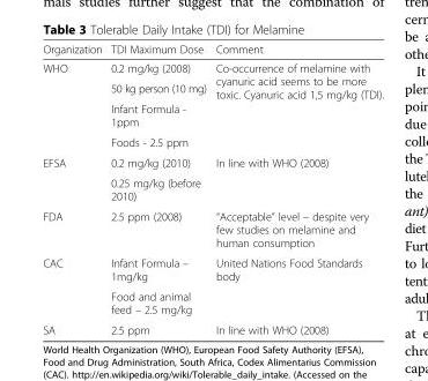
<table><thead><tr><td>Organization</td><td>TDI Maximum Dose</td><td>Comment</td></tr></thead><tbody><tr><td rowspan="4">WHO</td><td>0.2 mg/kg (2008)</td><td rowspan="4">Co-occurrence of melamine with cyanuric acid seems to be more toxic. Cyanuric acid 1,5 mg/kg (TDI).</td></tr><tr><td>50 kg person (10 mg)</td></tr><tr><td>Infant Formula - 1ppm</td></tr><tr><td>Foods - 2.5 ppm</td></tr><tr><td rowspan="2">EFSA</td><td>0.2 mg/kg (2010)</td><td rowspan="2">In line with WHO (2008)</td></tr><tr><td>0.25 mg/kg (before 2010)</td></tr><tr><td>FDA</td><td>2.5 ppm (2008)</td><td>“Acceptable” level – despite very few studies on melamine and human consumption</td></tr><tr><td rowspan="2">CAC</td><td>Infant Formula – 1mg/kg</td><td rowspan="2">United Nations Food Standards body</td></tr><tr><td>Food and animal feed – 2.5 mg/kg</td></tr><tr><td>SA</td><td>2.5 ppm</td><td>In line with WHO (2008)</td></tr></tbody></table>